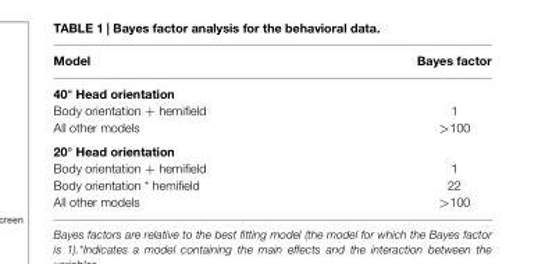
<table><thead><tr><td>Model</td><td>Bayes factor</td></tr></thead><tbody><tr><td colspan="2">40° Head orientation</td></tr><tr><td>Body orientation + hemifield</td><td>1</td></tr><tr><td>All other models</td><td>&gt;100</td></tr><tr><td colspan="2">20° Head orientation</td></tr><tr><td>Body orientation + hemifield</td><td>1</td></tr><tr><td>Body orientation * hemifield</td><td>22</td></tr><tr><td>All other models</td><td>&gt;100</td></tr></tbody></table>